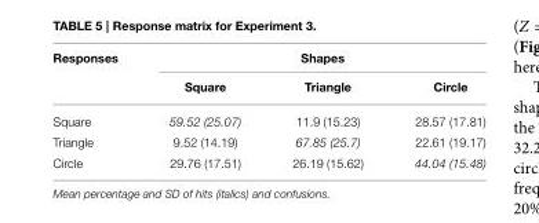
<table><thead><tr><td rowspan="2">Responses</td><td colspan="3">Shapes</td></tr><tr><td>Square</td><td>Triangle</td><td>Circle</td></tr></thead><tbody><tr><td>Square</td><td>59.52 (25.07)</td><td>11.9 (15.23)</td><td>28.57 (17.81)</td></tr><tr><td>Triangle</td><td>9.52 (14.19)</td><td>67.85 (25.7)</td><td>22.61 (19.17)</td></tr><tr><td>Circle</td><td>29.76 (17.51)</td><td>26.19 (15.62)</td><td>44.04 (15.48)</td></tr></tbody></table>